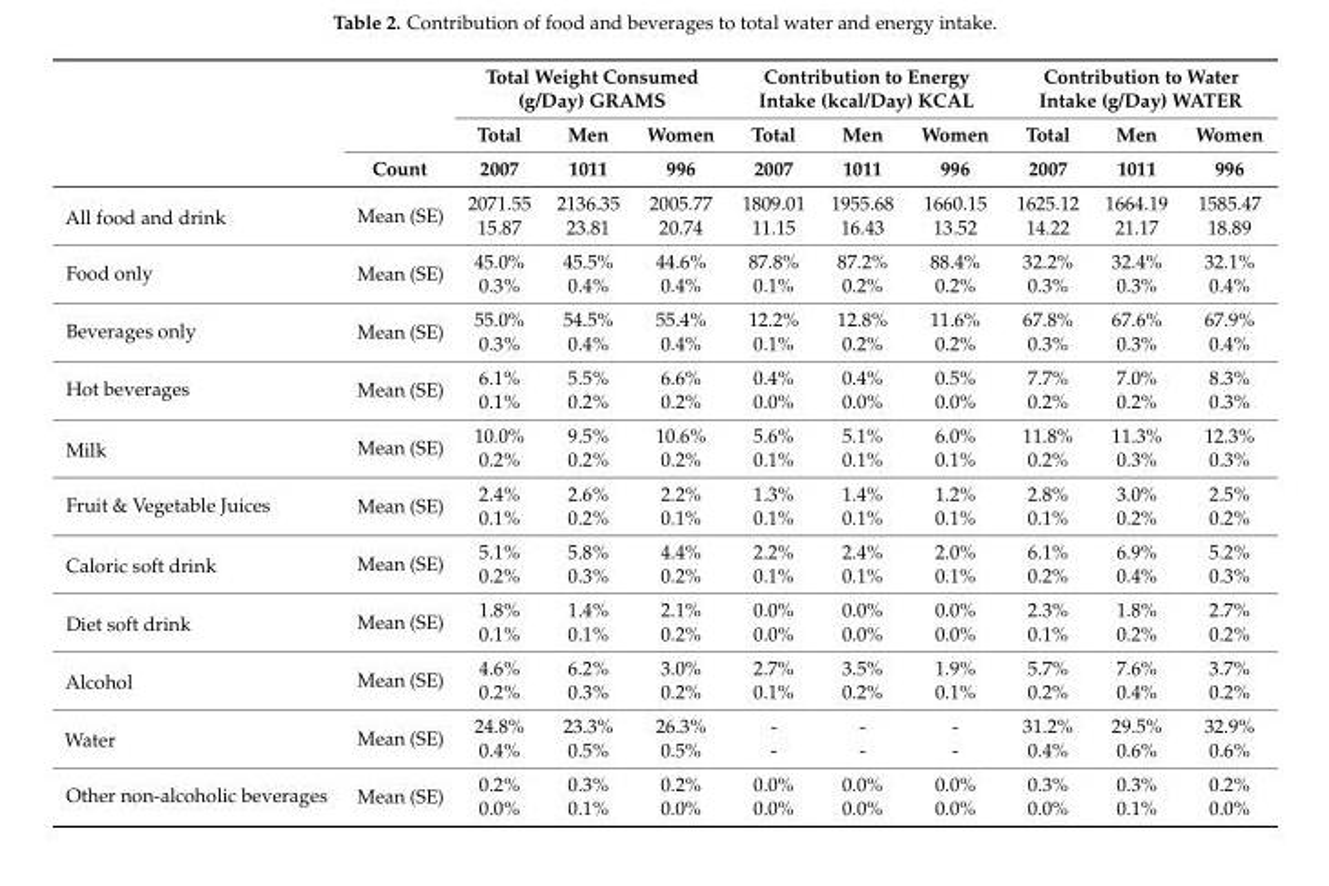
<table><thead><tr><td rowspan="3"></td><td rowspan="3">Count</td><td colspan="3">Total Weight Consumed (g/Day) GRAMS</td><td colspan="3">Contribution to Energy Intake (kcal/Day) KCAL</td><td colspan="3">Contribution to Water Intake (g/Day) WATER</td></tr><tr><td rowspan="2">Total 2007</td><td rowspan="2">Men 1011</td><td rowspan="2">Women 996</td><td rowspan="2">Total 2007</td><td rowspan="2">Men 1011</td><td rowspan="2">Women 996</td><td rowspan="2">Total 2007</td><td rowspan="2">Men 1011</td><td rowspan="2">Women 996</td></tr><tr></tr></thead><tbody><tr><td rowspan="2">All food and drink</td><td rowspan="2">Mean (SE)</td><td>2071.55</td><td>2136.35</td><td>2005.77</td><td>1809.01</td><td>1955.68</td><td>1660.15</td><td>1625.12</td><td>1664.19</td><td>1585.47</td></tr><tr><td>15.87</td><td>23.81</td><td>20.74</td><td>11.15</td><td>16.43</td><td>13.52</td><td>14.22</td><td>21.17</td><td>18.89</td></tr><tr><td rowspan="2">Food only</td><td rowspan="2">Mean (SE)</td><td>45.0%</td><td>45.5%</td><td>44.6%</td><td>87.8%</td><td>87.2%</td><td>88.4%</td><td>32.2%</td><td>32.4%</td><td>32.1%</td></tr><tr><td>0.3%</td><td>0.4%</td><td>0.4%</td><td>0.1%</td><td>0.2%</td><td>0.2%</td><td>0.3%</td><td>0.3%</td><td>0.4%</td></tr><tr><td rowspan="2">Beverages only</td><td rowspan="2">Mean (SE)</td><td>55.0%</td><td>54.5%</td><td>55.4%</td><td>12.2%</td><td>12.8%</td><td>11.6%</td><td>67.8%</td><td>67.6%</td><td>67.9%</td></tr><tr><td>0.3%</td><td>0.4%</td><td>0.4%</td><td>0.1%</td><td>0.2%</td><td>0.2%</td><td>0.3%</td><td>0.3%</td><td>0.4%</td></tr><tr><td rowspan="2">Hot beverages</td><td rowspan="2">Mean (SE)</td><td>6.1%</td><td>5.5%</td><td>6.6%</td><td>0.4%</td><td>0.4%</td><td>0.5%</td><td>7.7%</td><td>7.0%</td><td>8.3%</td></tr><tr><td>0.1%</td><td>0.2%</td><td>0.2%</td><td>0.0%</td><td>0.0%</td><td>0.0%</td><td>0.2%</td><td>0.2%</td><td>0.3%</td></tr><tr><td rowspan="2">Milk</td><td rowspan="2">Mean (SE)</td><td>10.0%</td><td>9.5%</td><td>10.6%</td><td>5.6%</td><td>5.1%</td><td>6.0%</td><td>11.8%</td><td>11.3%</td><td>12.3%</td></tr><tr><td>0.2%</td><td>0.2%</td><td>0.2%</td><td>0.1%</td><td>0.1%</td><td>0.1%</td><td>0.2%</td><td>0.3%</td><td>0.3%</td></tr><tr><td rowspan="2">Fruit &amp; Vegetable Juices</td><td rowspan="2">Mean (SE)</td><td>2.4%</td><td>2.6%</td><td>2.2%</td><td>1.3%</td><td>1.4%</td><td>1.2%</td><td>2.8%</td><td>3.0%</td><td>2.5%</td></tr><tr><td>0.1%</td><td>0.2%</td><td>0.1%</td><td>0.1%</td><td>0.1%</td><td>0.1%</td><td>0.1%</td><td>0.2%</td><td>0.2%</td></tr><tr><td rowspan="2">Caloric soft drink</td><td rowspan="2">Mean (SE)</td><td>5.1%</td><td>5.8%</td><td>4.4%</td><td>2.2%</td><td>2.4%</td><td>2.0%</td><td>6.1%</td><td>6.9%</td><td>5.2%</td></tr><tr><td>0.2%</td><td>0.3%</td><td>0.2%</td><td>0.1%</td><td>0.1%</td><td>0.1%</td><td>0.2%</td><td>0.4%</td><td>0.3%</td></tr><tr><td rowspan="2">Diet soft drink</td><td rowspan="2">Mean (SE)</td><td>1.8%</td><td>1.4%</td><td>2.1%</td><td>0.0%</td><td>0.0%</td><td>0.0%</td><td>2.3%</td><td>1.8%</td><td>2.7%</td></tr><tr><td>0.1%</td><td>0.1%</td><td>0.2%</td><td>0.0%</td><td>0.0%</td><td>0.0%</td><td>0.1%</td><td>0.2%</td><td>0.2%</td></tr><tr><td rowspan="2">Alcohol</td><td rowspan="2">Mean (SE)</td><td>4.6%</td><td>6.2%</td><td>3.0%</td><td>2.7%</td><td>3.5%</td><td>1.9%</td><td>5.7%</td><td>7.6%</td><td>3.7%</td></tr><tr><td>0.2%</td><td>0.3%</td><td>0.2%</td><td>0.1%</td><td>0.2%</td><td>0.1%</td><td>0.2%</td><td>0.4%</td><td>0.2%</td></tr><tr><td rowspan="2">Water</td><td rowspan="2">Mean (SE)</td><td>24.8%</td><td>23.3%</td><td>26.3%</td><td>-</td><td>-</td><td>-</td><td>31.2%</td><td>29.5%</td><td>32.9%</td></tr><tr><td>0.4%</td><td>0.5%</td><td>0.5%</td><td>-</td><td>-</td><td>-</td><td>0.4%</td><td>0.6%</td><td>0.6%</td></tr><tr><td rowspan="2">Other non-alcoholic beverages</td><td rowspan="2">Mean (SE)</td><td>0.2%</td><td>0.3%</td><td>0.2%</td><td>0.0%</td><td>0.0%</td><td>0.0%</td><td>0.3%</td><td>0.3%</td><td>0.2%</td></tr><tr><td>0.0%</td><td>0.1%</td><td>0.0%</td><td>0.0%</td><td>0.0%</td><td>0.0%</td><td>0.0%</td><td>0.1%</td><td>0.0%</td></tr></tbody></table>